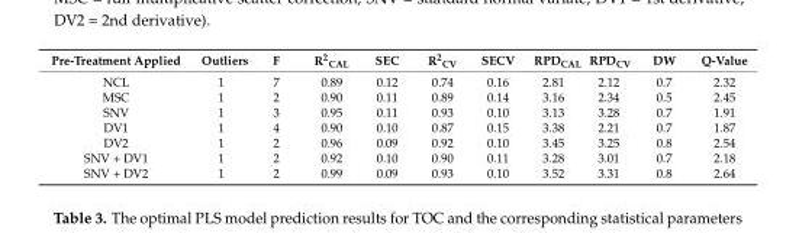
<table><thead><tr><td>Pre-Treatment Applied</td><td>Outliers</td><td>F</td><td>R<sup>2</sup><sub>CAL</sub></td><td>SEC</td><td>R<sup>2</sup><sub>CV</sub></td><td>SECV</td><td>RPD<sub>CAL</sub></td><td>RPD<sub>CV</sub></td><td>DW</td><td>Q-Value</td></tr></thead><tbody><tr><td>NCL</td><td>1</td><td>7</td><td>0.89</td><td>0.12</td><td>0.74</td><td>0.16</td><td>2.81</td><td>2.12</td><td>0.7</td><td>2.32</td></tr><tr><td>MSC</td><td>1</td><td>2</td><td>0.90</td><td>0.11</td><td>0.89</td><td>0.14</td><td>3.16</td><td>2.34</td><td>0.5</td><td>2.45</td></tr><tr><td>SNV</td><td>1</td><td>3</td><td>0.95</td><td>0.11</td><td>0.93</td><td>0.10</td><td>3.13</td><td>3.28</td><td>0.7</td><td>1.91</td></tr><tr><td>DV1</td><td>1</td><td>4</td><td>0.90</td><td>0.10</td><td>0.87</td><td>0.15</td><td>3.38</td><td>2.21</td><td>0.7</td><td>1.87</td></tr><tr><td>DV2</td><td>1</td><td>2</td><td>0.96</td><td>0.09</td><td>0.92</td><td>0.10</td><td>3.45</td><td>3.25</td><td>0.8</td><td>2.54</td></tr><tr><td>SNV + DV1</td><td>1</td><td>2</td><td>0.92</td><td>0.10</td><td>0.90</td><td>0.11</td><td>3.28</td><td>3.01</td><td>0.7</td><td>2.18</td></tr><tr><td>SNV + DV2</td><td>1</td><td>2</td><td>0.99</td><td>0.09</td><td>0.93</td><td>0.10</td><td>3.52</td><td>3.31</td><td>0.8</td><td>2.64</td></tr></tbody></table>